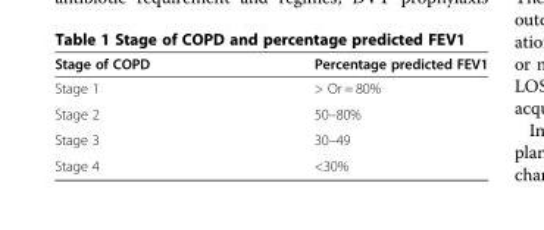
<table><thead><tr><td>Stage of COPD</td><td>Percentage predicted FEV1</td></tr></thead><tbody><tr><td>Stage 1</td><td>&gt; Or = 80%</td></tr><tr><td>Stage 2</td><td>50–80%</td></tr><tr><td>Stage 3</td><td>30–49</td></tr><tr><td>Stage 4</td><td>&lt;30%</td></tr></tbody></table>